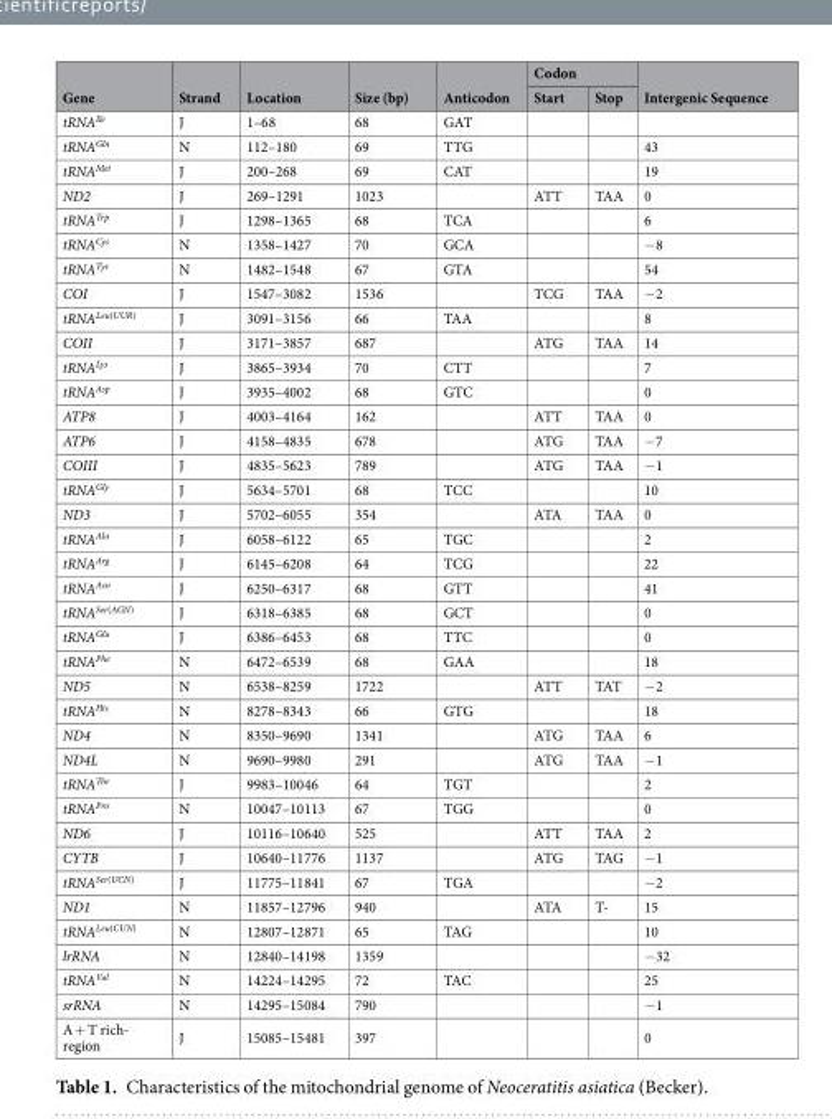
<table><thead><tr><td rowspan="2">Gene</td><td rowspan="2">Strand</td><td rowspan="2">Location</td><td rowspan="2">Size (bp)</td><td rowspan="2">Anticodon</td><td colspan="2">Codon</td><td rowspan="2">Intergenic Sequence</td></tr><tr><td>Start</td><td>Stop</td></tr></thead><tbody><tr><td>tRNA<sup>Ile</sup></td><td>J</td><td>1–68</td><td>68</td><td>GAT</td><td></td><td></td><td></td></tr><tr><td>tRNA<sup>Gln</sup></td><td>N</td><td>112–180</td><td>69</td><td>TTG</td><td></td><td></td><td>43</td></tr><tr><td>tRNA<sup>Met</sup></td><td>J</td><td>200–268</td><td>69</td><td>CAT</td><td></td><td></td><td>19</td></tr><tr><td>ND2</td><td>J</td><td>269–1291</td><td>1023</td><td></td><td>ATT</td><td>TAA</td><td>0</td></tr><tr><td>tRNA<sup>Trp</sup></td><td>J</td><td>1298–1365</td><td>68</td><td>TCA</td><td></td><td></td><td>6</td></tr><tr><td>tRNA<sup>Cys</sup></td><td>N</td><td>1358–1427</td><td>70</td><td>GCA</td><td></td><td></td><td>−8</td></tr><tr><td>tRNA<sup>Tyr</sup></td><td>N</td><td>1482–1548</td><td>67</td><td>GTA</td><td></td><td></td><td>54</td></tr><tr><td>COI</td><td>J</td><td>1547–3082</td><td>1536</td><td></td><td>TCG</td><td>TAA</td><td>−2</td></tr><tr><td>tRNA<sup>Leu(UUR)</sup></td><td>J</td><td>3091–3156</td><td>66</td><td>TAA</td><td></td><td></td><td>8</td></tr><tr><td>COII</td><td>J</td><td>3171–3857</td><td>687</td><td></td><td>ATG</td><td>TAA</td><td>14</td></tr><tr><td>tRNA<sup>Lys</sup></td><td>J</td><td>3865–3934</td><td>70</td><td>CTT</td><td></td><td></td><td>7</td></tr><tr><td>tRNA<sup>Asp</sup></td><td>J</td><td>3935–4002</td><td>68</td><td>GTC</td><td></td><td></td><td>0</td></tr><tr><td>ATP8</td><td>J</td><td>4003–4164</td><td>162</td><td></td><td>ATT</td><td>TAA</td><td>0</td></tr><tr><td>ATP6</td><td>J</td><td>4158–4835</td><td>678</td><td></td><td>ATG</td><td>TAA</td><td>−7</td></tr><tr><td>COIII</td><td>J</td><td>4835–5623</td><td>789</td><td></td><td>ATG</td><td>TAA</td><td>−1</td></tr><tr><td>tRNA<sup>Gly</sup></td><td>J</td><td>5634–5701</td><td>68</td><td>TCC</td><td></td><td></td><td>10</td></tr><tr><td>ND3</td><td>J</td><td>5702–6055</td><td>354</td><td></td><td>ATA</td><td>TAA</td><td>0</td></tr><tr><td>tRNA<sup>Ala</sup></td><td>J</td><td>6058–6122</td><td>65</td><td>TGC</td><td></td><td></td><td>2</td></tr><tr><td>tRNA<sup>Arg</sup></td><td>J</td><td>6145–6208</td><td>64</td><td>TCG</td><td></td><td></td><td>22</td></tr><tr><td>tRNA<sup>Asn</sup></td><td>J</td><td>6250–6317</td><td>68</td><td>GTT</td><td></td><td></td><td>41</td></tr><tr><td>tRNA<sup>Ser(AGN)</sup></td><td>J</td><td>6318–6385</td><td>68</td><td>GCT</td><td></td><td></td><td>0</td></tr><tr><td>tRNA<sup>Glu</sup></td><td>J</td><td>6386–6453</td><td>68</td><td>TTC</td><td></td><td></td><td>0</td></tr><tr><td>tRNA<sup>Phe</sup></td><td>N</td><td>6472–6539</td><td>68</td><td>GAA</td><td></td><td></td><td>18</td></tr><tr><td>ND5</td><td>N</td><td>6538–8259</td><td>1722</td><td></td><td>ATT</td><td>TAT</td><td>−2</td></tr><tr><td>tRNA<sup>His</sup></td><td>N</td><td>8278–8343</td><td>66</td><td>GTG</td><td></td><td></td><td>18</td></tr><tr><td>ND4</td><td>N</td><td>8350–9690</td><td>1341</td><td></td><td>ATG</td><td>TAA</td><td>6</td></tr><tr><td>ND4L</td><td>N</td><td>9690–9980</td><td>291</td><td></td><td>ATG</td><td>TAA</td><td>−1</td></tr><tr><td>tRNA<sup>Thr</sup></td><td>J</td><td>9983–10046</td><td>64</td><td>TGT</td><td></td><td></td><td>2</td></tr><tr><td>tRNA<sup>Pro</sup></td><td>N</td><td>10047–10113</td><td>67</td><td>TGG</td><td></td><td></td><td>0</td></tr><tr><td>ND6</td><td>J</td><td>10116–10640</td><td>525</td><td></td><td>ATT</td><td>TAA</td><td>2</td></tr><tr><td>CYTB</td><td>J</td><td>10640–11776</td><td>1137</td><td></td><td>ATG</td><td>TAG</td><td>−1</td></tr><tr><td>tRNA<sup>Ser(UCN)</sup></td><td>J</td><td>11775–11841</td><td>67</td><td>TGA</td><td></td><td></td><td>−2</td></tr><tr><td>ND1</td><td>N</td><td>11857–12796</td><td>940</td><td></td><td>ATA</td><td>T-</td><td>15</td></tr><tr><td>tRNA<sup>Leu(CUN)</sup></td><td>N</td><td>12807–12871</td><td>65</td><td>TAG</td><td></td><td></td><td>10</td></tr><tr><td>lrRNA</td><td>N</td><td>12840–14198</td><td>1359</td><td></td><td></td><td></td><td>−32</td></tr><tr><td>tRNA<sup>Val</sup></td><td>N</td><td>14224–14295</td><td>72</td><td>TAC</td><td></td><td></td><td>25</td></tr><tr><td>srRNA</td><td>N</td><td>14295–15084</td><td>790</td><td></td><td></td><td></td><td>−1</td></tr><tr><td>A + T rich- region</td><td>J</td><td>15085–15481</td><td>397</td><td></td><td></td><td></td><td>0</td></tr></tbody></table>